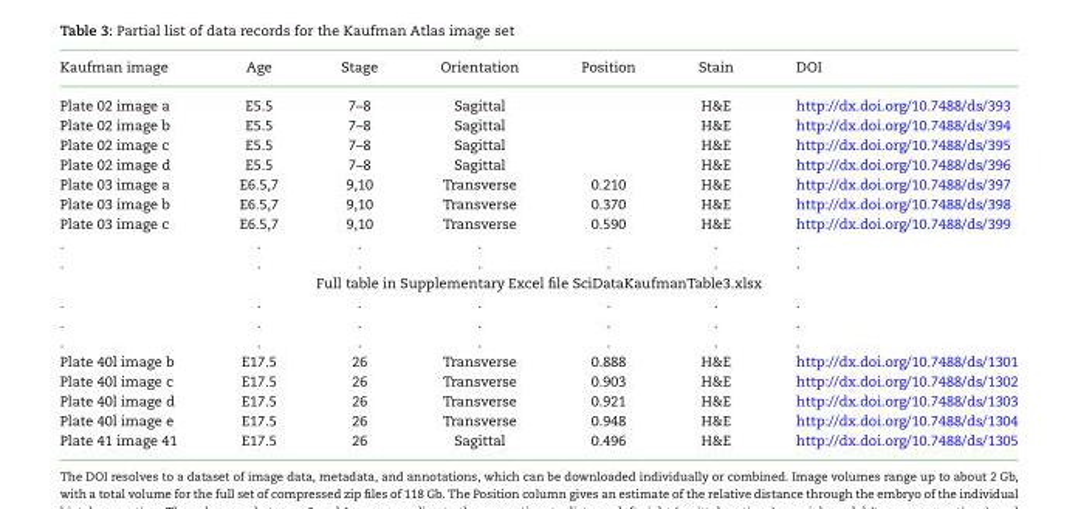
<table><thead><tr><td>Kaufman image</td><td>Age</td><td>Stage</td><td>Orientation</td><td>Position</td><td>Stain</td><td>DOI</td></tr></thead><tbody><tr><td>Plate 02 image a</td><td>E5.5</td><td>7–8</td><td>Sagittal</td><td></td><td>H&amp;E</td><td>http://dx.doi.org/10.7488/ds/393</td></tr><tr><td>Plate 02 image b</td><td>E5.5</td><td>7–8</td><td>Sagittal</td><td></td><td>H&amp;E</td><td>http://dx.doi.org/10.7488/ds/394</td></tr><tr><td>Plate 02 image c</td><td>E5.5</td><td>7–8</td><td>Sagittal</td><td></td><td>H&amp;E</td><td>http://dx.doi.org/10.7488/ds/395</td></tr><tr><td>Plate 02 image d</td><td>E5.5</td><td>7–8</td><td>Sagittal</td><td></td><td>H&amp;E</td><td>http://dx.doi.org/10.7488/ds/396</td></tr><tr><td>Plate 03 image a</td><td>E6.5,7</td><td>9,10</td><td>Transverse</td><td>0.210</td><td>H&amp;E</td><td>http://dx.doi.org/10.7488/ds/397</td></tr><tr><td>Plate 03 image b</td><td>E6.5,7</td><td>9,10</td><td>Transverse</td><td>0.370</td><td>H&amp;E</td><td>http://dx.doi.org/10.7488/ds/398</td></tr><tr><td>Plate 03 image c</td><td>E6.5,7</td><td>9,10</td><td>Transverse</td><td>0.590</td><td>H&amp;E</td><td>http://dx.doi.org/10.7488/ds/399</td></tr><tr><td>.</td><td>.</td><td>.</td><td>.</td><td>.</td><td>.</td><td>.</td></tr><tr><td>.</td><td>.</td><td>.</td><td>.</td><td>.</td><td>.</td><td>.</td></tr><tr><td colspan="7">Full table in Supplementary Excel file SciDataKaufmanTable3.xlsx</td></tr><tr><td>.</td><td>.</td><td>.</td><td>.</td><td>.</td><td>.</td><td>.</td></tr><tr><td>.</td><td>.</td><td>.</td><td>.</td><td>.</td><td>.</td><td>.</td></tr><tr><td>.</td><td>.</td><td>.</td><td>.</td><td>.</td><td>.</td><td>.</td></tr><tr><td>Plate 40l image b</td><td>E17.5</td><td>26</td><td>Transverse</td><td>0.888</td><td>H&amp;E</td><td>http://dx.doi.org/10.7488/ds/1301</td></tr><tr><td>Plate 40l image c</td><td>E17.5</td><td>26</td><td>Transverse</td><td>0.903</td><td>H&amp;E</td><td>http://dx.doi.org/10.7488/ds/1302</td></tr><tr><td>Plate 40l image d</td><td>E17.5</td><td>26</td><td>Transverse</td><td>0.921</td><td>H&amp;E</td><td>http://dx.doi.org/10.7488/ds/1303</td></tr><tr><td>Plate 40l image e</td><td>E17.5</td><td>26</td><td>Transverse</td><td>0.948</td><td>H&amp;E</td><td>http://dx.doi.org/10.7488/ds/1304</td></tr><tr><td>Plate 41 image 41</td><td>E17.5</td><td>26</td><td>Sagittal</td><td>0.496</td><td>H&amp;E</td><td>http://dx.doi.org/10.7488/ds/1305</td></tr></tbody></table>